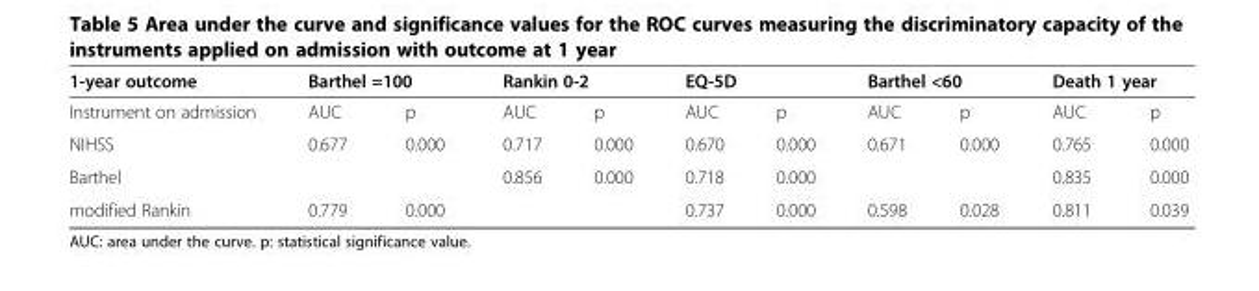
<table><thead><tr><td rowspan="2">1-year outcome Instrument on admission</td><td colspan="2">Barthel =100</td><td colspan="2">Rankin 0-2</td><td colspan="2">EQ-5D</td><td colspan="2">Barthel &lt;60</td><td colspan="2">Death 1 year</td></tr><tr><td>AUC</td><td>p</td><td>AUC</td><td>p</td><td>AUC</td><td>p</td><td>AUC</td><td>p</td><td>AUC</td><td>p</td></tr></thead><tbody><tr><td>NIHSS</td><td>0.677</td><td>0.000</td><td>0.717</td><td>0.000</td><td>0.670</td><td>0.000</td><td>0.671</td><td>0.000</td><td>0.765</td><td>0.000</td></tr><tr><td>Barthel</td><td></td><td></td><td>0.856</td><td>0.000</td><td>0.718</td><td>0.000</td><td></td><td></td><td>0.835</td><td>0.000</td></tr><tr><td>modified Rankin</td><td>0.779</td><td>0.000</td><td></td><td></td><td>0.737</td><td>0.000</td><td>0.598</td><td>0.028</td><td>0.811</td><td>0.039</td></tr></tbody></table>